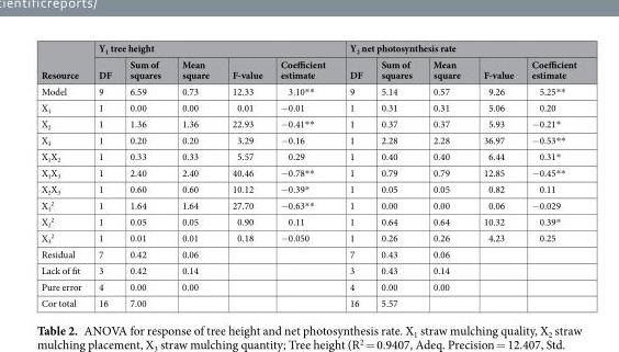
<table><thead><tr><td rowspan="2">Resource</td><td colspan="5">Y<sub>1</sub> tree height</td><td colspan="5">Y<sub>2</sub> net photosynthesis rate</td></tr><tr><td>DF</td><td>Sum of squares</td><td>Mean square</td><td>F-value</td><td>Coefficient estimate</td><td>DF</td><td>Sum of squares</td><td>Mean square</td><td>F-value</td><td>Coefficient estimate</td></tr></thead><tbody><tr><td>Model</td><td>9</td><td>6.59</td><td>0.73</td><td>12.33</td><td>3.10**</td><td>9</td><td>5.14</td><td>0.57</td><td>9.26</td><td>5.25**</td></tr><tr><td>X<sub>1</sub></td><td>1</td><td>0.00</td><td>0.00</td><td>0.01</td><td>−0.01</td><td>1</td><td>0.31</td><td>0.31</td><td>5.06</td><td>0.20</td></tr><tr><td>X<sub>2</sub></td><td>1</td><td>1.36</td><td>1.36</td><td>22.93</td><td>−0.41**</td><td>1</td><td>0.37</td><td>0.37</td><td>5.93</td><td>−0.21*</td></tr><tr><td>X<sub>3</sub></td><td>1</td><td>0.20</td><td>0.20</td><td>3.29</td><td>−0.16</td><td>1</td><td>2.28</td><td>2.28</td><td>36.97</td><td>−0.53**</td></tr><tr><td>X<sub>1</sub>X<sub>2</sub></td><td>1</td><td>0.33</td><td>0.33</td><td>5.57</td><td>0.29</td><td>1</td><td>0.40</td><td>0.40</td><td>6.44</td><td>0.31*</td></tr><tr><td>X<sub>1</sub>X<sub>3</sub></td><td>1</td><td>2.40</td><td>2.40</td><td>40.46</td><td>−0.78**</td><td>1</td><td>0.79</td><td>0.79</td><td>12.85</td><td>−0.45**</td></tr><tr><td>X<sub>2</sub>X<sub>3</sub></td><td>1</td><td>0.60</td><td>0.60</td><td>10.12</td><td>−0.39*</td><td>1</td><td>0.05</td><td>0.05</td><td>0.82</td><td>0.11</td></tr><tr><td>X<sub>1</sub> <sup>2</sup></td><td>1</td><td>1.64</td><td>1.64</td><td>27.70</td><td>−0.63**</td><td>1</td><td>0.00</td><td>0.00</td><td>0.06</td><td>−0.029</td></tr><tr><td>X<sub>2</sub> <sup>2</sup></td><td>1</td><td>0.05</td><td>0.05</td><td>0.90</td><td>0.11</td><td>1</td><td>0.64</td><td>0.64</td><td>10.32</td><td>0.39*</td></tr><tr><td>X<sub>3</sub> <sup>2</sup></td><td>1</td><td>0.01</td><td>0.01</td><td>0.18</td><td>−0.050</td><td>1</td><td>0.26</td><td>0.26</td><td>4.23</td><td>0.25</td></tr><tr><td>Residual</td><td>7</td><td>0.42</td><td>0.06</td><td></td><td></td><td>7</td><td>0.43</td><td>0.06</td><td></td><td></td></tr><tr><td>Lack of fit</td><td>3</td><td>0.42</td><td>0.14</td><td></td><td></td><td>3</td><td>0.43</td><td>0.14</td><td></td><td></td></tr><tr><td>Pure error</td><td>4</td><td>0.00</td><td>0.00</td><td></td><td></td><td>4</td><td>0.00</td><td>0.00</td><td></td><td></td></tr><tr><td>Cor total</td><td>16</td><td>7.00</td><td></td><td></td><td></td><td>16</td><td>5.57</td><td></td><td></td><td></td></tr></tbody></table>